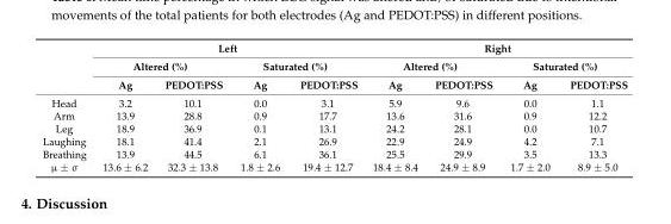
<table><thead><tr><td rowspan="3"></td><td colspan="4">Left</td><td colspan="4">Right</td></tr><tr><td colspan="2">Altered (%)</td><td colspan="2">Saturated (%)</td><td colspan="2">Altered (%)</td><td colspan="2">Saturated (%)</td></tr><tr><td>Ag</td><td>PEDOT:PSS</td><td>Ag</td><td>PEDOT:PSS</td><td>Ag</td><td>PEDOT:PSS</td><td>Ag</td><td>PEDOT:PSS</td></tr></thead><tbody><tr><td>Head</td><td>3.2</td><td>10.1</td><td>0.0</td><td>3.1</td><td>5.9</td><td>9.6</td><td>0.0</td><td>1.1</td></tr><tr><td>Arm</td><td>13.9</td><td>28.8</td><td>0.9</td><td>17.7</td><td>13.6</td><td>31.6</td><td>0.9</td><td>12.2</td></tr><tr><td>Leg</td><td>18.9</td><td>36.9</td><td>0.1</td><td>13.1</td><td>24.2</td><td>28.1</td><td>0.0</td><td>10.7</td></tr><tr><td>Laughing</td><td>18.1</td><td>41.4</td><td>2.1</td><td>26.9</td><td>22.9</td><td>24.9</td><td>4.2</td><td>7.1</td></tr><tr><td>Breathing</td><td>13.9</td><td>44.5</td><td>6.1</td><td>36.1</td><td>25.5</td><td>29.9</td><td>3.5</td><td>13.3</td></tr><tr><td>µ ± σ</td><td>13.6 ± 6.2</td><td>32.3 ± 13.8</td><td>1.8 ± 2.6</td><td>19.4 ± 12.7</td><td>18.4 ± 8.4</td><td>24.9 ± 8.9</td><td>1.7 ± 2.0</td><td>8.9 ± 5.0</td></tr></tbody></table>